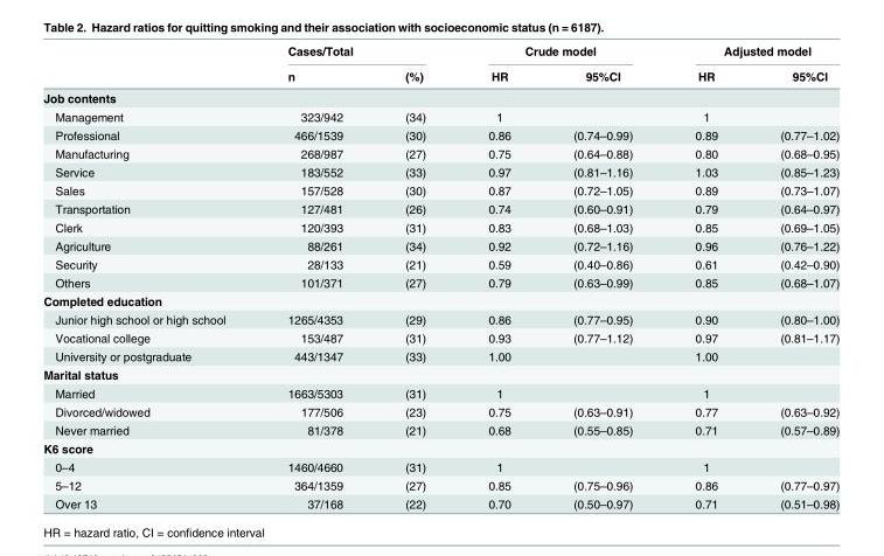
<table><thead><tr><td rowspan="2"></td><td colspan="2">Cases/Total</td><td colspan="2">Crude model</td><td colspan="2">Adjusted model</td></tr><tr><td>n</td><td>(%)</td><td>HR</td><td>95%CI</td><td>HR</td><td>95%CI</td></tr></thead><tbody><tr><td colspan="7">Job contents</td></tr><tr><td>Management</td><td>323/942</td><td>(34)</td><td>1</td><td></td><td>1</td><td></td></tr><tr><td>Professional</td><td>466/1539</td><td>(30)</td><td>0.86</td><td>(0.74–0.99)</td><td>0.89</td><td>(0.77–1.02)</td></tr><tr><td>Manufacturing</td><td>268/987</td><td>(27)</td><td>0.75</td><td>(0.64–0.88)</td><td>0.80</td><td>(0.68–0.95)</td></tr><tr><td>Service</td><td>183/552</td><td>(33)</td><td>0.97</td><td>(0.81–1.16)</td><td>1.03</td><td>(0.85–1.23)</td></tr><tr><td>Sales</td><td>157/528</td><td>(30)</td><td>0.87</td><td>(0.72–1.05)</td><td>0.89</td><td>(0.73–1.07)</td></tr><tr><td>Transportation</td><td>127/481</td><td>(26)</td><td>0.74</td><td>(0.60–0.91)</td><td>0.79</td><td>(0.64–0.97)</td></tr><tr><td>Clerk</td><td>120/393</td><td>(31)</td><td>0.83</td><td>(0.68–1.03)</td><td>0.85</td><td>(0.69–1.05)</td></tr><tr><td>Agriculture</td><td>88/261</td><td>(34)</td><td>0.92</td><td>(0.72–1.16)</td><td>0.96</td><td>(0.76–1.22)</td></tr><tr><td>Security</td><td>28/133</td><td>(21)</td><td>0.59</td><td>(0.40–0.86)</td><td>0.61</td><td>(0.42–0.90)</td></tr><tr><td>Others</td><td>101/371</td><td>(27)</td><td>0.79</td><td>(0.63–0.99)</td><td>0.85</td><td>(0.68–1.07)</td></tr><tr><td colspan="7">Completed education</td></tr><tr><td>Junior high school or high school</td><td>1265/4353</td><td>(29)</td><td>0.86</td><td>(0.77–0.95)</td><td>0.90</td><td>(0.80–1.00)</td></tr><tr><td>Vocational college</td><td>153/487</td><td>(31)</td><td>0.93</td><td>(0.77–1.12)</td><td>0.97</td><td>(0.81–1.17)</td></tr><tr><td>University or postgraduate</td><td>443/1347</td><td>(33)</td><td>1.00</td><td></td><td>1.00</td><td></td></tr><tr><td colspan="7">Marital status</td></tr><tr><td>Married</td><td>1663/5303</td><td>(31)</td><td>1</td><td></td><td>1</td><td></td></tr><tr><td>Divorced/widowed</td><td>177/506</td><td>(23)</td><td>0.75</td><td>(0.63–0.91)</td><td>0.77</td><td>(0.63–0.92)</td></tr><tr><td>Never married</td><td>81/378</td><td>(21)</td><td>0.68</td><td>(0.55–0.85)</td><td>0.71</td><td>(0.57–0.89)</td></tr><tr><td colspan="7">K6 score</td></tr><tr><td>0–4</td><td>1460/4660</td><td>(31)</td><td>1</td><td></td><td>1</td><td></td></tr><tr><td>5–12</td><td>364/1359</td><td>(27)</td><td>0.85</td><td>(0.75–0.96)</td><td>0.86</td><td>(0.77–0.97)</td></tr><tr><td>Over 13</td><td>37/168</td><td>(22)</td><td>0.70</td><td>(0.50–0.97)</td><td>0.71</td><td>(0.51–0.98)</td></tr></tbody></table>